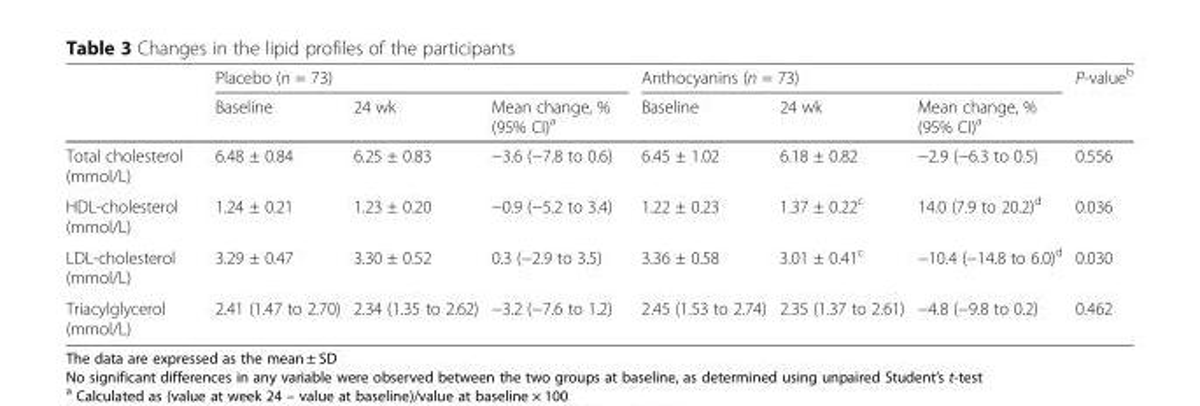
<table><thead><tr><td rowspan="2"></td><td colspan="3">Placebo (n = 73)</td><td colspan="3">Anthocyanins (n = 73)</td><td rowspan="2">P-value<sup>b</sup></td></tr><tr><td>Baseline</td><td>24 wk</td><td>Mean change, % (95% CI)<sup>a</sup></td><td>Baseline</td><td>24 wk</td><td>Mean change, % (95% CI)<sup>a</sup></td></tr></thead><tbody><tr><td>Total cholesterol (mmol/L)</td><td>6.48 ± 0.84</td><td>6.25 ± 0.83</td><td>−3.6 (−7.8 to 0.6)</td><td>6.45 ± 1.02</td><td>6.18 ± 0.82</td><td>−2.9 (−6.3 to 0.5)</td><td>0.556</td></tr><tr><td>HDL-cholesterol (mmol/L)</td><td>1.24 ± 0.21</td><td>1.23 ± 0.20</td><td>−0.9 (−5.2 to 3.4)</td><td>1.22 ± 0.23</td><td>1.37 ± 0.22<sup>c</sup></td><td>14.0 (7.9 to 20.2)<sup>d</sup></td><td>0.036</td></tr><tr><td>LDL-cholesterol (mmol/L)</td><td>3.29 ± 0.47</td><td>3.30 ± 0.52</td><td>0.3 (−2.9 to 3.5)</td><td>3.36 ± 0.58</td><td>3.01 ± 0.41<sup>c</sup></td><td>−10.4 (−14.8 to 6.0)<sup>d</sup></td><td>0.030</td></tr><tr><td>Triacylglycerol (mmol/L)</td><td>2.41 (1.47 to 2.70)</td><td>2.34 (1.35 to 2.62)</td><td>−3.2 (−7.6 to 1.2)</td><td>2.45 (1.53 to 2.74)</td><td>2.35 (1.37 to 2.61)</td><td>−4.8 (−9.8 to 0.2)</td><td>0.462</td></tr></tbody></table>